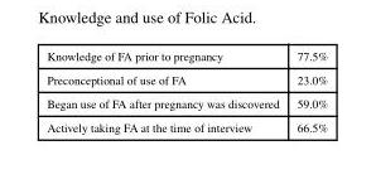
<table><tbody><tr><td>Knowledge of FA prior to pregnancy</td><td>77.5%</td></tr><tr><td>Preconceptional of use of FA</td><td>23.0%</td></tr><tr><td>Began use of FA after pregnancy was discovered</td><td>59.0%</td></tr><tr><td>Actively taking FA at the time of interview</td><td>66.5%</td></tr></tbody></table>